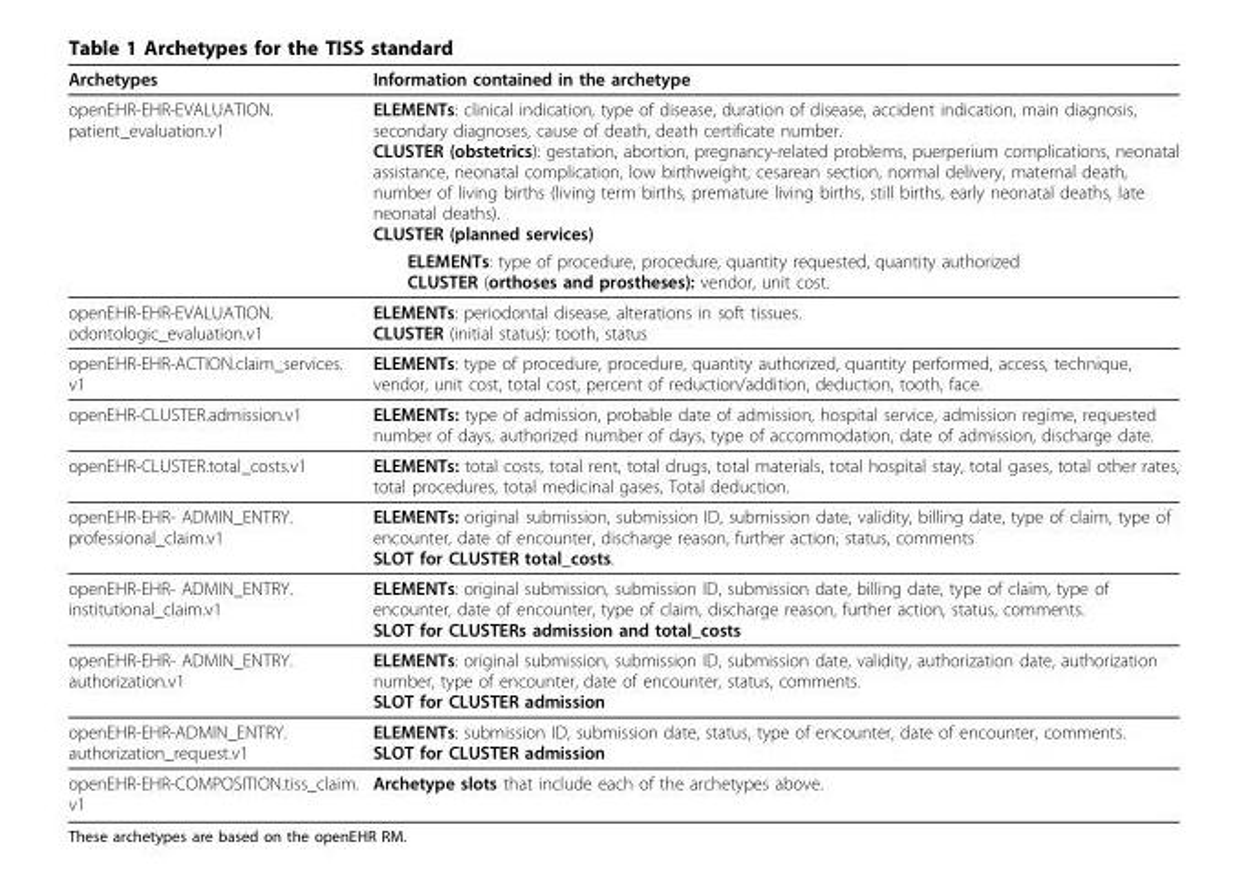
<table><thead><tr><td>Archetypes</td><td>Information contained in the archetype</td></tr></thead><tbody><tr><td rowspan="2">openEHR-EHR-EVALUATION. patient_evaluation.v1</td><td>ELEMENTs: clinical indication, type of disease, duration of disease, accident indication, main diagnosis, secondary diagnoses, cause of death, death certificate number. CLUSTER (obstetrics): gestation, abortion, pregnancy-related problems, puerperium complications, neonatal assistance, neonatal complication, low birthweight, cesarean section, normal delivery, maternal death, number of living births (living term births, premature living births, still births, early neonatal deaths, late neonatal deaths). CLUSTER (planned services)</td></tr><tr><td>ELEMENTs: type of procedure, procedure, quantity requested, quantity authorized CLUSTER (orthoses and prostheses): vendor, unit cost.</td></tr><tr><td>openEHR-EHR-EVALUATION. odontologic_evaluation.v1</td><td>ELEMENTs: periodontal disease, alterations in soft tissues. CLUSTER (initial status): tooth, status</td></tr><tr><td>openEHR-EHR-ACTION.claim_services. v1</td><td>ELEMENTs: type of procedure, procedure, quantity authorized, quantity performed, access, technique, vendor, unit cost, total cost, percent of reduction/addition, deduction, tooth, face.</td></tr><tr><td>openEHR-CLUSTER.admission.v1</td><td>ELEMENTs: type of admission, probable date of admission, hospital service, admission regime, requested number of days, authorized number of days, type of accommodation, date of admission, discharge date.</td></tr><tr><td>openEHR-CLUSTER.total_costs.v1</td><td>ELEMENTs: total costs, total rent, total drugs, total materials, total hospital stay, total gases, total other rates, total procedures, total medicinal gases, Total deduction.</td></tr><tr><td>openEHR-EHR- ADMIN_ENTRY. professional_claim.v1</td><td>ELEMENTs: original submission, submission ID, submission date, validity, billing date, type of claim, type of encounter, date of encounter, discharge reason, further action, status, comments SLOT for CLUSTER total_costs.</td></tr><tr><td>openEHR-EHR- ADMIN_ENTRY. institutional_claim.v1</td><td>ELEMENTs: original submission, submission ID, submission date, billing date, type of claim, type of encounter, date of encounter, type of claim, discharge reason, further action, status, comments. SLOT for CLUSTERs admission and total_costs</td></tr><tr><td>openEHR-EHR- ADMIN_ENTRY. authorization.v1</td><td>ELEMENTs: original submission, submission ID, submission date, validity, authorization date, authorization number, type of encounter, date of encounter, status, comments. SLOT for CLUSTER admission</td></tr><tr><td>openEHR-EHR-ADMIN_ENTRY. authorization_request.v1</td><td>ELEMENTs: submission ID, submission date, status, type of encounter, date of encounter, comments. SLOT for CLUSTER admission</td></tr><tr><td>openEHR-EHR-COMPOSITION.tiss_claim. v1</td><td>Archetype slots that include each of the archetypes above.</td></tr></tbody></table>